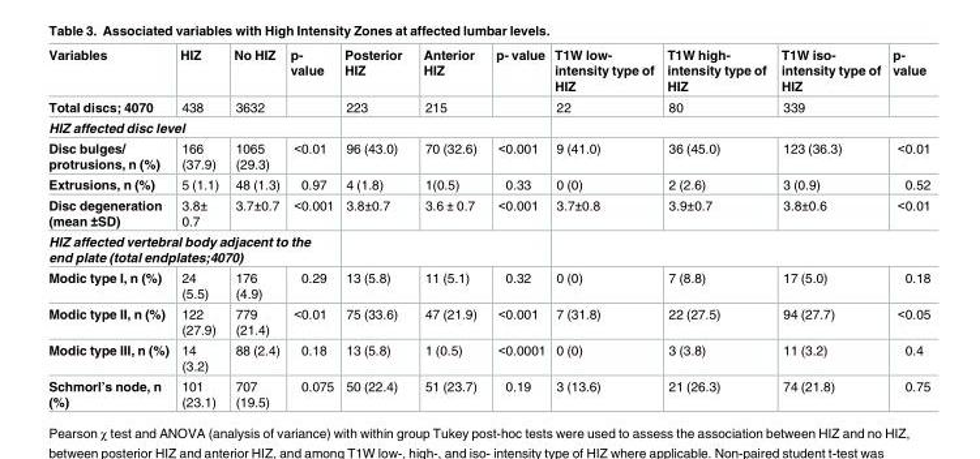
<table><thead><tr><td>Variables</td><td>HIZ</td><td>No HIZ</td><td>p- value</td><td>Posterior HIZ</td><td>Anterior HIZ</td><td>p- value</td><td>T1W low- intensity type of HIZ</td><td>T1W high- intensity type of HIZ</td><td>T1W iso- intensity type of HIZ</td><td>p- value</td></tr></thead><tbody><tr><td>Total discs; 4070</td><td>438</td><td>3632</td><td></td><td>223</td><td>215</td><td></td><td>22</td><td>80</td><td>339</td><td></td></tr><tr><td colspan="11">HIZ affected disc level</td></tr><tr><td>Disc bulges/ protrusions, n (%)</td><td>166 (37.9)</td><td>1065 (29.3)</td><td>&lt;0.01</td><td>96 (43.0)</td><td>70 (32.6)</td><td>&lt;0.001</td><td>9 (41.0)</td><td>36 (45.0)</td><td>123 (36.3)</td><td>&lt;0.01</td></tr><tr><td>Extrusions, n (%)</td><td>5 (1.1)</td><td>48 (1.3)</td><td>0.97</td><td>4 (1.8)</td><td>1(0.5)</td><td>0.33</td><td>0 (0)</td><td>2 (2.6)</td><td>3 (0.9)</td><td>0.52</td></tr><tr><td>Disc degeneration (mean ±SD)</td><td>3.8± 0.7</td><td>3.7±0.7</td><td>&lt;0.001</td><td>3.8±0.7</td><td>3.6 ± 0.7</td><td>&lt;0.001</td><td>3.7±0.8</td><td>3.9±0.7</td><td>3.8±0.6</td><td>&lt;0.01</td></tr><tr><td colspan="11">HIZ affected vertebral body adjacent to the end plate (total endplates;4070)</td></tr><tr><td>Modic type I, n (%)</td><td>24 (5.5)</td><td>176 (4.9)</td><td>0.29</td><td>13 (5.8)</td><td>11 (5.1)</td><td>0.32</td><td>0 (0)</td><td>7 (8.8)</td><td>17 (5.0)</td><td>0.18</td></tr><tr><td>Modic type II, n (%)</td><td>122 (27.9)</td><td>779 (21.4)</td><td>&lt;0.01</td><td>75 (33.6)</td><td>47 (21.9)</td><td>&lt;0.001</td><td>7 (31.8)</td><td>22 (27.5)</td><td>94 (27.7)</td><td>&lt;0.05</td></tr><tr><td>Modic type III, n (%)</td><td>14 (3.2)</td><td>88 (2.4)</td><td>0.18</td><td>13 (5.8)</td><td>1 (0.5)</td><td>&lt;0.0001</td><td>0 (0)</td><td>3 (3.8)</td><td>11 (3.2)</td><td>0.4</td></tr><tr><td>Schmorl’s node, n (%)</td><td>101 (23.1)</td><td>707 (19.5)</td><td>0.075</td><td>50 (22.4)</td><td>51 (23.7)</td><td>0.19</td><td>3 (13.6)</td><td>21 (26.3)</td><td>74 (21.8)</td><td>0.75</td></tr></tbody></table>